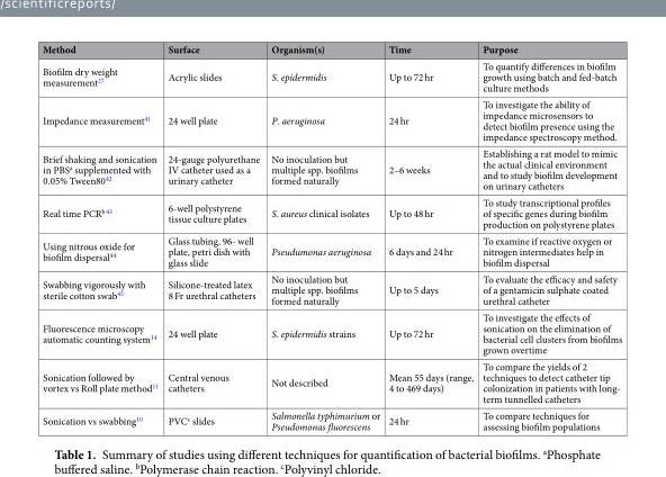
<table><thead><tr><td>Method</td><td>Surface</td><td>Organism(s)</td><td>Time</td><td>Purpose</td></tr></thead><tbody><tr><td>Biofilm dry weight measurement<sup>27</sup></td><td>Acrylic slides</td><td>S. epidermidis</td><td>Up to 72 hr</td><td>To quantify differences in biofilm growth using batch and fed-batch culture methods</td></tr><tr><td>Impedance measurement<sup>41</sup></td><td>24 well plate</td><td>P. aeruginosa</td><td>24 hr</td><td>To investigate the ability of impedance microsensors to detect biofilm presence using the impedance spectroscopy method.</td></tr><tr><td>Brief shaking and sonication in PBS<sup>a</sup> supplemented with 0.05% Tween80<sup>42</sup></td><td>24-gauge polyurethane IV catheter used as a urinary catheter</td><td>No inoculation but multiple spp. biofilms formed naturally</td><td>2–6 weeks</td><td>Establishing a rat model to mimic the actual clinical environment and to study biofilm development on urinary catheters</td></tr><tr><td>Real time PCR<sup>b 43</sup></td><td>6-well polystyrene tissue culture plates</td><td>S. aureus clinical isolates</td><td>Up to 48 hr</td><td>To study transcriptional profiles of specific genes during biofilm production on polystyrene plates</td></tr><tr><td>Using nitrous oxide for biofilm dispersal<sup>44</sup></td><td>Glass tubing, 96- well plate, petri dish with glass slide</td><td>Pseudumonas aeruginosa</td><td>6 days and 24 hr</td><td>To examine if reactive oxygen or nitrogen intermediates help in biofilm dispersal</td></tr><tr><td>Swabbing vigorously with sterile cotton swab<sup>45</sup></td><td>Silicone-treated latex 8 Fr urethral catheters</td><td>No inoculation but multiple spp. biofilms formed naturally</td><td>Up to 5 days</td><td>To evaluate the efficacy and safety of a gentamicin sulphate coated urethral catheter</td></tr><tr><td>Fluorescence microscopy automatic counting system<sup>14</sup></td><td>24 well plate</td><td>S. epidermidis strains</td><td>Up to 72 hr</td><td>To investigate the effects of sonication on the elimination of bacterial cell clusters from biofilms grown overtime</td></tr><tr><td>Sonication followed by vortex vs Roll plate method<sup>11</sup></td><td>Central venous catheters</td><td>Not described</td><td>Mean 55 days (range, 4 to 469 days)</td><td>To compare the yields of 2 techniques to detect catheter tip colonization in patients with long- term tunnelled catheters</td></tr><tr><td>Sonication vs swabbing<sup>10</sup></td><td>PVC<sup>c</sup> slides</td><td>Salmonella typhimurium or Pseudomonas fluorescens</td><td>24 hr</td><td>To compare techniques for assessing biofilm populations</td></tr></tbody></table>